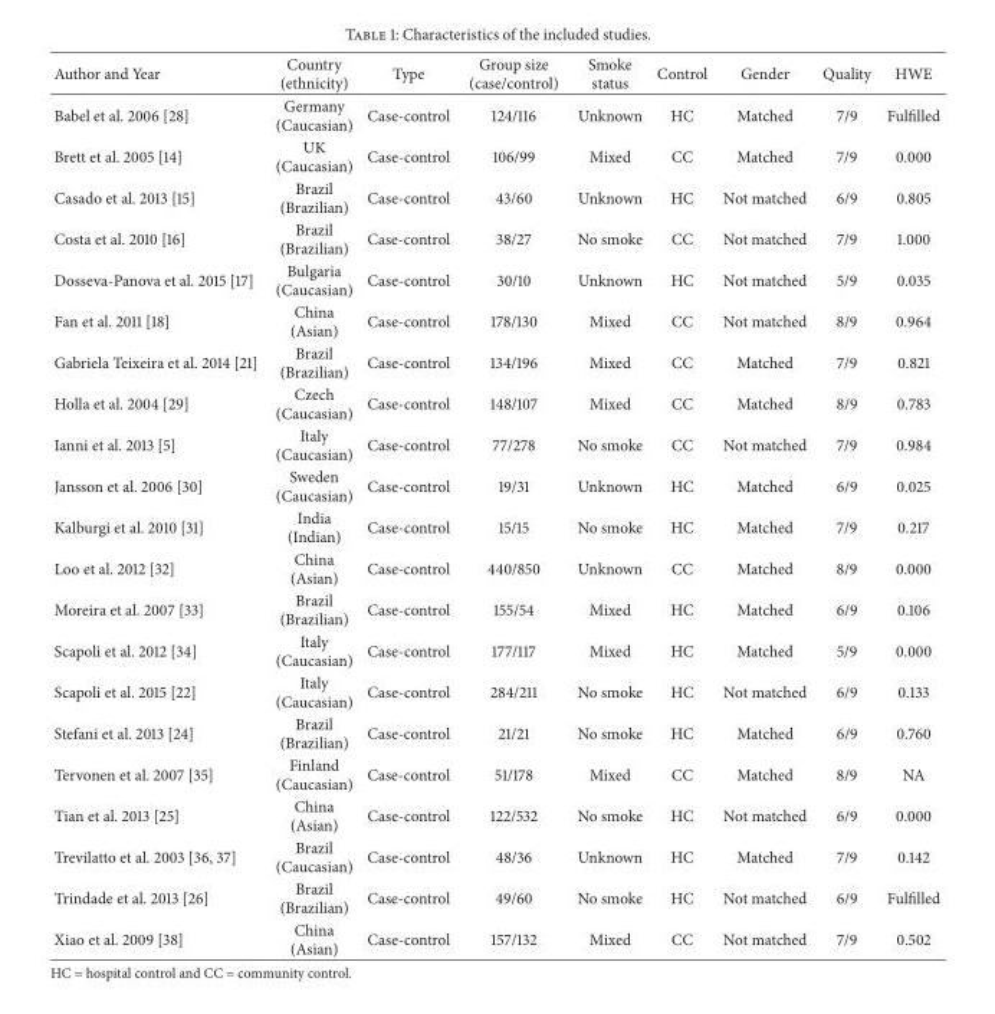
<table><thead><tr><td>Author and Year</td><td>Country (ethnicity)</td><td>Type</td><td>Group size (case/control)</td><td>Smoke status</td><td>Control</td><td>Gender</td><td>Quality</td><td>HWE</td></tr></thead><tbody><tr><td>Babel et al. 2006 [28]</td><td>Germany (Caucasian)</td><td>Case-control</td><td>124/116</td><td>Unknown</td><td>HC</td><td>Matched</td><td>7/9</td><td>Fulfilled</td></tr><tr><td>Brett et al. 2005 [14]</td><td>UK (Caucasian)</td><td>Case-control</td><td>106/99</td><td>Mixed</td><td>CC</td><td>Matched</td><td>7/9</td><td>0.000</td></tr><tr><td>Casado et al. 2013 [15]</td><td>Brazil (Brazilian)</td><td>Case-control</td><td>43/60</td><td>Unknown</td><td>HC</td><td>Not matched</td><td>6/9</td><td>0.805</td></tr><tr><td>Costa et al. 2010 [16]</td><td>Brazil (Brazilian)</td><td>Case-control</td><td>38/27</td><td>No smoke</td><td>CC</td><td>Not matched</td><td>7/9</td><td>1.000</td></tr><tr><td>Dosseva-Panova et al. 2015 [17]</td><td>Bulgaria (Caucasian)</td><td>Case-control</td><td>30/10</td><td>Unknown</td><td>HC</td><td>Not matched</td><td>5/9</td><td>0.035</td></tr><tr><td>Fan et al. 2011 [18]</td><td>China (Asian)</td><td>Case-control</td><td>178/130</td><td>Mixed</td><td>CC</td><td>Not matched</td><td>8/9</td><td>0.964</td></tr><tr><td>Gabriela Teixeira et al. 2014 [21]</td><td>Brazil (Brazilian)</td><td>Case-control</td><td>134/196</td><td>Mixed</td><td>CC</td><td>Matched</td><td>7/9</td><td>0.821</td></tr><tr><td>Holla et al. 2004 [29]</td><td>Czech (Caucasian)</td><td>Case-control</td><td>148/107</td><td>Mixed</td><td>CC</td><td>Matched</td><td>8/9</td><td>0.783</td></tr><tr><td>Ianni et al. 2013 [5]</td><td>Italy (Caucasian)</td><td>Case-control</td><td>77/278</td><td>No smoke</td><td>CC</td><td>Not matched</td><td>7/9</td><td>0.984</td></tr><tr><td>Jansson et al. 2006 [30]</td><td>Sweden (Caucasian)</td><td>Case-control</td><td>19/31</td><td>Unknown</td><td>HC</td><td>Matched</td><td>6/9</td><td>0.025</td></tr><tr><td>Kalburgi et al. 2010 [31]</td><td>India (Indian)</td><td>Case-control</td><td>15/15</td><td>No smoke</td><td>HC</td><td>Matched</td><td>7/9</td><td>0.217</td></tr><tr><td>Loo et al. 2012 [32]</td><td>China (Asian)</td><td>Case-control</td><td>440/850</td><td>Unknown</td><td>CC</td><td>Matched</td><td>8/9</td><td>0.000</td></tr><tr><td>Moreira et al. 2007 [33]</td><td>Brazil (Brazilian)</td><td>Case-control</td><td>155/54</td><td>Mixed</td><td>HC</td><td>Matched</td><td>6/9</td><td>0.106</td></tr><tr><td>Scapoli et al. 2012 [34]</td><td>Italy (Caucasian)</td><td>Case-control</td><td>177/117</td><td>Mixed</td><td>HC</td><td>Matched</td><td>5/9</td><td>0.000</td></tr><tr><td>Scapoli et al. 2015 [22]</td><td>Italy (Caucasian)</td><td>Case-control</td><td>284/211</td><td>No smoke</td><td>HC</td><td>Not matched</td><td>6/9</td><td>0.133</td></tr><tr><td>Stefani et al. 2013 [24]</td><td>Brazil (Brazilian)</td><td>Case-control</td><td>21/21</td><td>No smoke</td><td>HC</td><td>Matched</td><td>6/9</td><td>0.760</td></tr><tr><td>Tervonen et al. 2007 [35]</td><td>Finland (Caucasian)</td><td>Case-control</td><td>51/178</td><td>Mixed</td><td>CC</td><td>Matched</td><td>8/9</td><td>NA</td></tr><tr><td>Tian et al. 2013 [25]</td><td>China (Asian)</td><td>Case-control</td><td>122/532</td><td>No smoke</td><td>HC</td><td>Not matched</td><td>6/9</td><td>0.000</td></tr><tr><td>Trevilatto et al. 2003 [36, 37]</td><td>Brazil (Caucasian)</td><td>Case-control</td><td>48/36</td><td>Unknown</td><td>HC</td><td>Matched</td><td>7/9</td><td>0.142</td></tr><tr><td>Trindade et al. 2013 [26]</td><td>Brazil (Brazilian)</td><td>Case-control</td><td>49/60</td><td>No smoke</td><td>HC</td><td>Not matched</td><td>6/9</td><td>Fulfilled</td></tr><tr><td>Xiao et al. 2009 [38]</td><td>China (Asian)</td><td>Case-control</td><td>157/132</td><td>Mixed</td><td>CC</td><td>Not matched</td><td>7/9</td><td>0.502</td></tr></tbody></table>